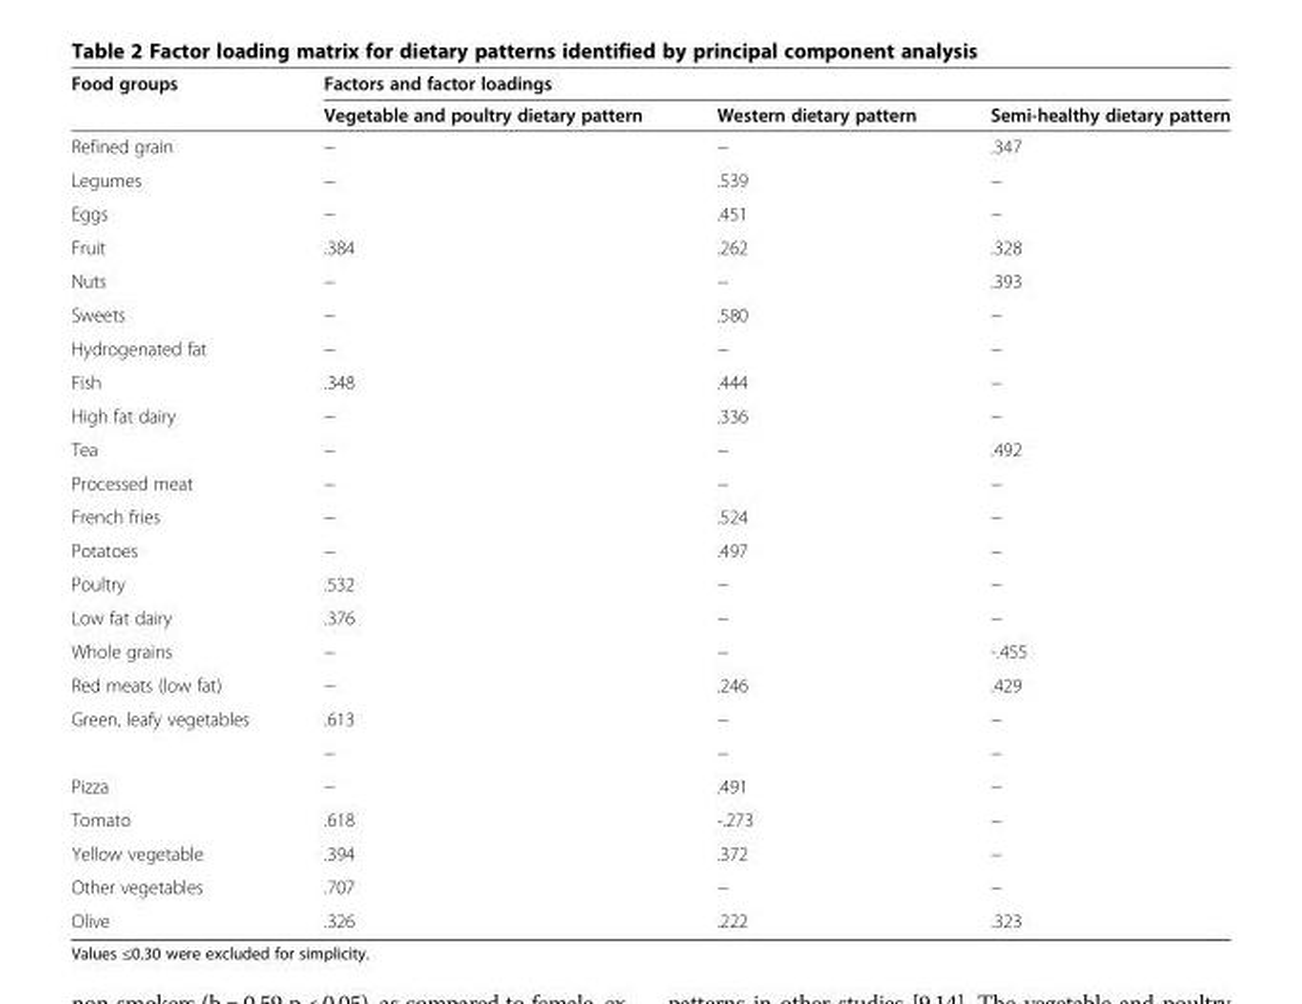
<table><thead><tr><td rowspan="2">Food groups</td><td colspan="3">Factors and factor loadings</td></tr><tr><td>Vegetable and poultry dietary pattern</td><td>Western dietary pattern</td><td>Semi-healthy dietary pattern</td></tr></thead><tbody><tr><td>Refined grain</td><td>−</td><td>−</td><td>.347</td></tr><tr><td>Legumes</td><td>−</td><td>.539</td><td>−</td></tr><tr><td>Eggs</td><td>−</td><td>.451</td><td>−</td></tr><tr><td>Fruit</td><td>.384</td><td>.262</td><td>.328</td></tr><tr><td>Nuts</td><td>−</td><td>−</td><td>.393</td></tr><tr><td>Sweets</td><td>−</td><td>.580</td><td>−</td></tr><tr><td>Hydrogenated fat</td><td>−</td><td>−</td><td>−</td></tr><tr><td>Fish</td><td>.348</td><td>.444</td><td>−</td></tr><tr><td>High fat dairy</td><td>−</td><td>.336</td><td>−</td></tr><tr><td>Tea</td><td>−</td><td>−</td><td>.492</td></tr><tr><td>Processed meat</td><td>−</td><td>−</td><td>−</td></tr><tr><td>French fries</td><td>−</td><td>.524</td><td>−</td></tr><tr><td>Potatoes</td><td>−</td><td>.497</td><td>−</td></tr><tr><td>Poultry</td><td>.532</td><td>−</td><td>−</td></tr><tr><td>Low fat dairy</td><td>.376</td><td>−</td><td>−</td></tr><tr><td>Whole grains</td><td>−</td><td>−</td><td>-.455</td></tr><tr><td>Red meats (low fat)</td><td>−</td><td>.246</td><td>.429</td></tr><tr><td rowspan="2">Green, leafy vegetables</td><td>.613</td><td>−</td><td>−</td></tr><tr><td>−</td><td>−</td><td>−</td></tr><tr><td>Pizza</td><td>−</td><td>.491</td><td>−</td></tr><tr><td>Tomato</td><td>.618</td><td>-.273</td><td>−</td></tr><tr><td>Yellow vegetable</td><td>.394</td><td>.372</td><td>−</td></tr><tr><td>Other vegetables</td><td>.707</td><td>−</td><td>−</td></tr><tr><td>Olive</td><td>.326</td><td>.222</td><td>.323</td></tr></tbody></table>